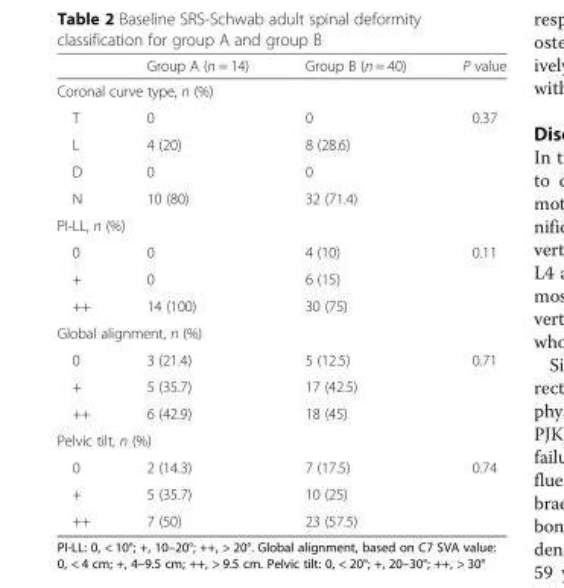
<table><thead><tr><td></td><td>Group A (n = 14)</td><td>Group B (n = 40)</td><td>P value</td></tr></thead><tbody><tr><td colspan="4">Coronal curve type, n (%)</td></tr><tr><td>T</td><td>0</td><td>0</td><td>0.37</td></tr><tr><td>L</td><td>4 (20)</td><td>8 (28.6)</td><td></td></tr><tr><td>D</td><td>0</td><td>0</td><td></td></tr><tr><td>N</td><td>10 (80)</td><td>32 (71.4)</td><td></td></tr><tr><td colspan="4">PI-LL, n (%)</td></tr><tr><td>0</td><td>0</td><td>4 (10)</td><td>0.11</td></tr><tr><td>+</td><td>0</td><td>6 (15)</td><td></td></tr><tr><td>++</td><td>14 (100)</td><td>30 (75)</td><td></td></tr><tr><td colspan="4">Global alignment, n (%)</td></tr><tr><td>0</td><td>3 (21.4)</td><td>5 (12.5)</td><td>0.71</td></tr><tr><td>+</td><td>5 (35.7)</td><td>17 (42.5)</td><td></td></tr><tr><td>++</td><td>6 (42.9)</td><td>18 (45)</td><td></td></tr><tr><td colspan="4">Pelvic tilt, n (%)</td></tr><tr><td>0</td><td>2 (14.3)</td><td>7 (17.5)</td><td>0.74</td></tr><tr><td>+</td><td>5 (35.7)</td><td>10 (25)</td><td></td></tr><tr><td>++</td><td>7 (50)</td><td>23 (57.5)</td><td></td></tr></tbody></table>